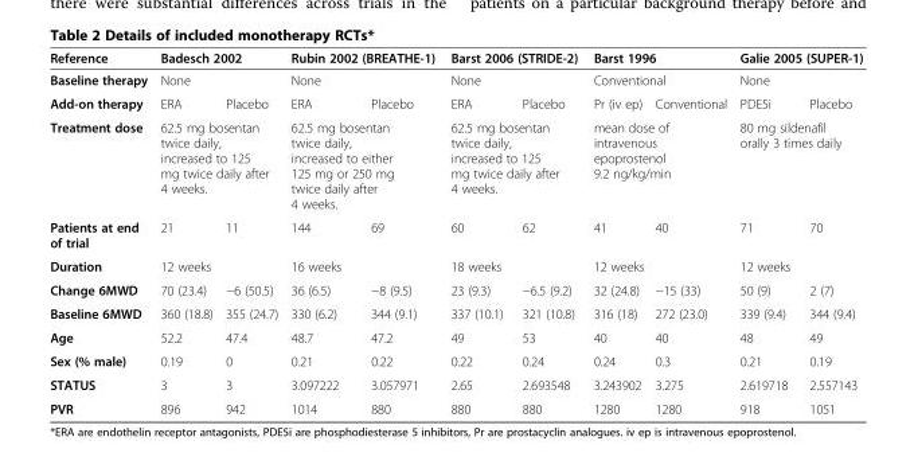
<table><thead><tr><td rowspan="3">Reference Baseline therapy Add-on therapy</td><td rowspan="2" colspan="2">Badesch 2002 None</td><td rowspan="2" colspan="2">Rubin 2002 (BREATHE-1) None</td><td rowspan="2" colspan="2">Barst 2006 (STRIDE-2) None</td><td rowspan="2" colspan="2">Barst 1996 Conventional</td><td rowspan="2" colspan="2">Galie 2005 (SUPER-1) None</td></tr><tr></tr><tr><td>ERA</td><td>Placebo</td><td>ERA</td><td>Placebo</td><td>ERA</td><td>Placebo</td><td>Pr (iv ep)</td><td>Conventional</td><td>PDE5i</td><td>Placebo</td></tr></thead><tbody><tr><td>Treatment dose</td><td colspan="2">62.5 mg bosentan twice daily, increased to 125 mg twice daily after 4 weeks.</td><td colspan="2">62.5 mg bosentan twice daily, increased to either 125 mg or 250 mg twice daily after 4 weeks.</td><td colspan="2">62.5 mg bosentan twice daily, increased to 125 mg twice daily after 4 weeks.</td><td colspan="2">mean dose of intravenous epoprostenol 9.2 ng/kg/min</td><td colspan="2">80 mg sildenafil orally 3 times daily</td></tr><tr><td>Patients at end of trial</td><td>21</td><td>11</td><td>144</td><td>69</td><td>60</td><td>62</td><td>41</td><td>40</td><td>71</td><td>70</td></tr><tr><td>Duration</td><td colspan="2">12 weeks</td><td colspan="2">16 weeks</td><td colspan="2">18 weeks</td><td colspan="2">12 weeks</td><td colspan="2">12 weeks</td></tr><tr><td>Change 6MWD</td><td>70 (23.4)</td><td>−6 (50.5)</td><td>36 (6.5)</td><td>−8 (9.5)</td><td>23 (9.3)</td><td>−6.5 (9.2)</td><td>32 (24.8)</td><td>−15 (33)</td><td>50 (9)</td><td>2 (7)</td></tr><tr><td>Baseline 6MWD</td><td>360 (18.8)</td><td>355 (24.7)</td><td>330 (6.2)</td><td>344 (9.1)</td><td>337 (10.1)</td><td>321 (10.8)</td><td>316 (18)</td><td>272 (23.0)</td><td>339 (9.4)</td><td>344 (9.4)</td></tr><tr><td>Age</td><td>52.2</td><td>47.4</td><td>48.7</td><td>47.2</td><td>49</td><td>53</td><td>40</td><td>40</td><td>48</td><td>49</td></tr><tr><td>Sex (% male)</td><td>0.19</td><td>0</td><td>0.21</td><td>0.22</td><td>0.22</td><td>0.24</td><td>0.24</td><td>0.3</td><td>0.21</td><td>0.19</td></tr><tr><td>STATUS</td><td>3</td><td>3</td><td>3.097222</td><td>3.057971</td><td>2.65</td><td>2.693548</td><td>3.243902</td><td>3.275</td><td>2.619718</td><td>2.557143</td></tr><tr><td>PVR</td><td>896</td><td>942</td><td>1014</td><td>880</td><td>880</td><td>880</td><td>1280</td><td>1280</td><td>918</td><td>1051</td></tr></tbody></table>